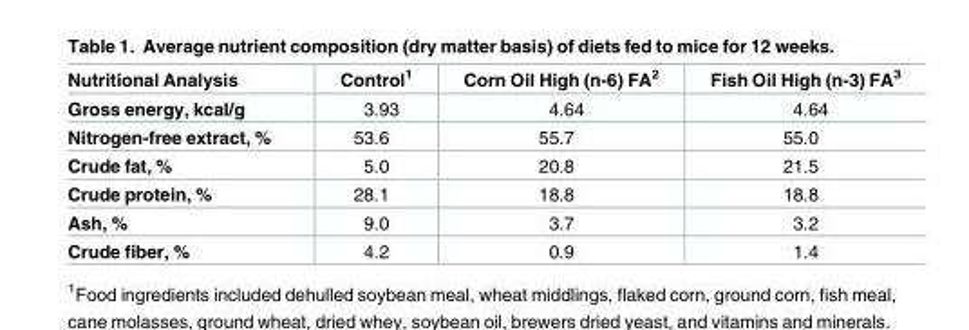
<table><thead><tr><td>Nutritional Analysis</td><td>Control<sup>1</sup></td><td>Corn Oil High (n-6) FA<sup>2</sup></td><td>Fish Oil High (n-3) FA<sup>3</sup></td></tr></thead><tbody><tr><td>Gross energy, kcal/g</td><td>3.93</td><td>4.64</td><td>4.64</td></tr><tr><td>Nitrogen-free extract, %</td><td>53.6</td><td>55.7</td><td>55.0</td></tr><tr><td>Crude fat, %</td><td>5.0</td><td>20.8</td><td>21.5</td></tr><tr><td>Crude protein, %</td><td>28.1</td><td>18.8</td><td>18.8</td></tr><tr><td>Ash, %</td><td>9.0</td><td>3.7</td><td>3.2</td></tr><tr><td>Crude fiber, %</td><td>4.2</td><td>0.9</td><td>1.4</td></tr></tbody></table>